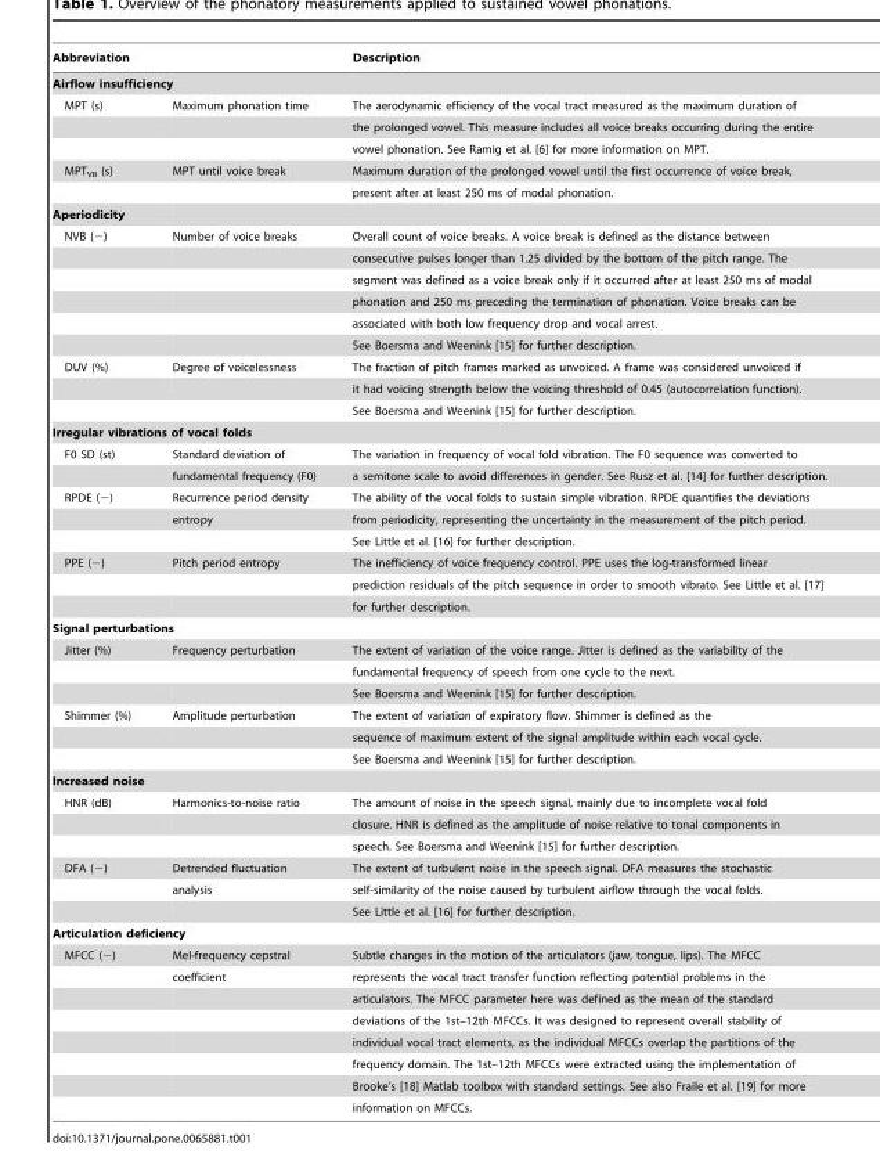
<table><thead><tr><td>Abbreviation</td><td></td><td>Description</td></tr></thead><tbody><tr><td colspan="3">Airflow insufficiency</td></tr><tr><td rowspan="3">MPT (s)</td><td>Maximum phonation time</td><td>The aerodynamic efficiency of the vocal tract measured as the maximum duration of</td></tr><tr><td></td><td>the prolonged vowel. This measure includes all voice breaks occurring during the entire</td></tr><tr><td></td><td>vowel phonation. See Ramig et al. [6] for more information on MPT.</td></tr><tr><td rowspan="2">MPT<sub>VB</sub> (s)</td><td>MPT until voice break</td><td>Maximum duration of the prolonged vowel until the first occurrence of voice break,</td></tr><tr><td></td><td>present after at least 250 ms of modal phonation.</td></tr><tr><td colspan="3">Aperiodicity</td></tr><tr><td rowspan="6">NVB (−)</td><td>Number of voice breaks</td><td>Overall count of voice breaks. A voice break is defined as the distance between</td></tr><tr><td></td><td>consecutive pulses longer than 1.25 divided by the bottom of the pitch range. The</td></tr><tr><td></td><td>segment was defined as a voice break only if it occurred after at least 250 ms of modal</td></tr><tr><td></td><td>phonation and 250 ms preceding the termination of phonation. Voice breaks can be</td></tr><tr><td></td><td>associated with both low frequency drop and vocal arrest.</td></tr><tr><td></td><td>See Boersma and Weenink [15] for further description.</td></tr><tr><td rowspan="3">DUV (%)</td><td>Degree of voicelessness</td><td>The fraction of pitch frames marked as unvoiced. A frame was considered unvoiced if</td></tr><tr><td></td><td>it had voicing strength below the voicing threshold of 0.45 (autocorrelation function).</td></tr><tr><td></td><td>See Boersma and Weenink [15] for further description.</td></tr><tr><td colspan="3">Irregular vibrations of vocal folds</td></tr><tr><td rowspan="2">F0 SD (st)</td><td>Standard deviation of</td><td>The variation in frequency of vocal fold vibration. The F0 sequence was converted to</td></tr><tr><td>fundamental frequency (F0)</td><td>a semitone scale to avoid differences in gender. See Rusz et al. [14] for further description.</td></tr><tr><td rowspan="3">RPDE (−)</td><td>Recurrence period density</td><td>The ability of the vocal folds to sustain simple vibration. RPDE quantifies the deviations</td></tr><tr><td>entropy</td><td>from periodicity, representing the uncertainty in the measurement of the pitch period.</td></tr><tr><td></td><td>See Little et al. [16] for further description.</td></tr><tr><td rowspan="3">PPE (−)</td><td>Pitch period entropy</td><td>The inefficiency of voice frequency control. PPE uses the log-transformed linear</td></tr><tr><td></td><td>prediction residuals of the pitch sequence in order to smooth vibrato. See Little et al. [17]</td></tr><tr><td></td><td>for further description.</td></tr><tr><td colspan="3">Signal perturbations</td></tr><tr><td rowspan="3">Jitter (%)</td><td>Frequency perturbation</td><td>The extent of variation of the voice range. Jitter is defined as the variability of the</td></tr><tr><td></td><td>fundamental frequency of speech from one cycle to the next.</td></tr><tr><td></td><td>See Boersma and Weenink [15] for further description.</td></tr><tr><td rowspan="3">Shimmer (%)</td><td>Amplitude perturbation</td><td>The extent of variation of expiratory flow. Shimmer is defined as the</td></tr><tr><td></td><td>sequence of maximum extent of the signal amplitude within each vocal cycle.</td></tr><tr><td></td><td>See Boersma and Weenink [15] for further description.</td></tr><tr><td colspan="3">Increased noise</td></tr><tr><td rowspan="3">HNR (dB)</td><td>Harmonics-to-noise ratio</td><td>The amount of noise in the speech signal, mainly due to incomplete vocal fold</td></tr><tr><td></td><td>closure. HNR is defined as the amplitude of noise relative to tonal components in</td></tr><tr><td></td><td>speech. See Boersma and Weenink [15] for further description.</td></tr><tr><td rowspan="3">DFA (−)</td><td>Detrended fluctuation</td><td>The extent of turbulent noise in the speech signal. DFA measures the stochastic</td></tr><tr><td>analysis</td><td>self-similarity of the noise caused by turbulent airflow through the vocal folds.</td></tr><tr><td></td><td>See Little et al. [16] for further description.</td></tr><tr><td colspan="3">Articulation deficiency</td></tr><tr><td rowspan="8">MFCC (−)</td><td>Mel-frequency cepstral</td><td>Subtle changes in the motion of the articulators (jaw, tongue, lips). The MFCC</td></tr><tr><td>coefficient</td><td>represents the vocal tract transfer function reflecting potential problems in the</td></tr><tr><td></td><td>articulators. The MFCC parameter here was defined as the mean of the standard</td></tr><tr><td></td><td>deviations of the 1st–12th MFCCs. It was designed to represent overall stability of</td></tr><tr><td></td><td>individual vocal tract elements, as the individual MFCCs overlap the partitions of the</td></tr><tr><td></td><td>frequency domain. The 1st–12th MFCCs were extracted using the implementation of</td></tr><tr><td></td><td>Brooke’s [18] Matlab toolbox with standard settings. See also Fraile et al. [19] for more</td></tr><tr><td></td><td>information on MFCCs.</td></tr></tbody></table>